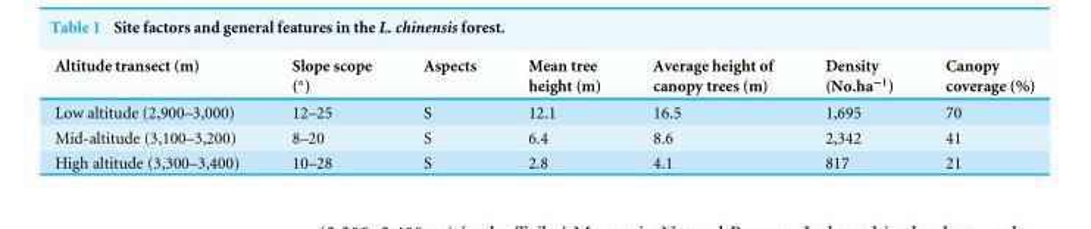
<table><thead><tr><td>Altitude transect (m)</td><td>Slope scope (◦)</td><td>Aspects</td><td>Mean tree height (m)</td><td>Average height of canopy trees (m)</td><td>Density (No.ha<sup>−1</sup>)</td><td>Canopy coverage (%)</td></tr></thead><tbody><tr><td>Low altitude (2,900–3,000)</td><td>12–25</td><td>S</td><td>12.1</td><td>16.5</td><td>1,695</td><td>70</td></tr><tr><td>Mid-altitude (3,100–3,200)</td><td>8–20</td><td>S</td><td>6.4</td><td>8.6</td><td>2,342</td><td>41</td></tr><tr><td>High altitude (3,300–3,400)</td><td>10–28</td><td>S</td><td>2.8</td><td>4.1</td><td>817</td><td>21</td></tr></tbody></table>